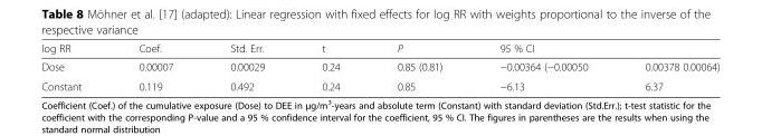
<table><thead><tr><td>log RR</td><td>Coef.</td><td>Std. Err.</td><td>t</td><td>P</td><td>95 % CI</td><td></td></tr></thead><tbody><tr><td>Dose</td><td>0.00007</td><td>0.00029</td><td>0.24</td><td>0.85 (0.81)</td><td>−0.00364 (−0.00050</td><td>0.00378 0.00064)</td></tr><tr><td>Constant</td><td>0.119</td><td>0.492</td><td>0.24</td><td>0.85</td><td>−6.13</td><td>6.37</td></tr></tbody></table>